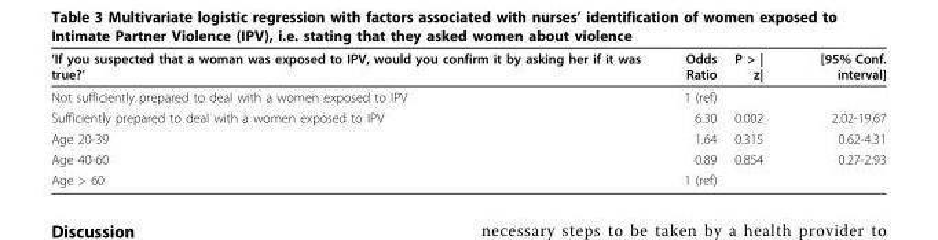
<table><thead><tr><td>’If you suspected that a woman was exposed to IPV, would you confirm it by asking her if it was true?’</td><td>Odds Ratio</td><td>P &gt; | z|</td><td>[95% Conf. interval]</td></tr></thead><tbody><tr><td>Not sufficiently prepared to deal with a women exposed to IPV</td><td>1 (ref)</td><td></td><td></td></tr><tr><td>Sufficiently prepared to deal with a women exposed to IPV</td><td>6.30</td><td>0.002</td><td>2.02-19.67</td></tr><tr><td>Age 20-39</td><td>1.64</td><td>0.315</td><td>0.62-4.31</td></tr><tr><td>Age 40-60</td><td>0.89</td><td>0.854</td><td>0.27-2.93</td></tr><tr><td>Age &gt; 60</td><td>1 (ref)</td><td></td><td></td></tr></tbody></table>